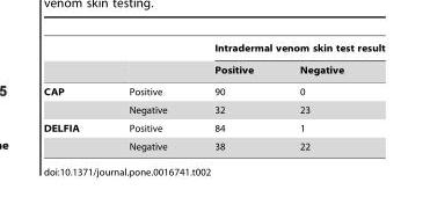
<table><thead><tr><td rowspan="2"></td><td rowspan="2"></td><td colspan="2">Intradermal venom skin test result</td></tr><tr><td>Positive</td><td>Negative</td></tr></thead><tbody><tr><td rowspan="2">CAP</td><td>Positive</td><td>90</td><td>0</td></tr><tr><td>Negative</td><td>32</td><td>23</td></tr><tr><td rowspan="2">DELFIA</td><td>Positive</td><td>84</td><td>1</td></tr><tr><td>Negative</td><td>38</td><td>22</td></tr></tbody></table>